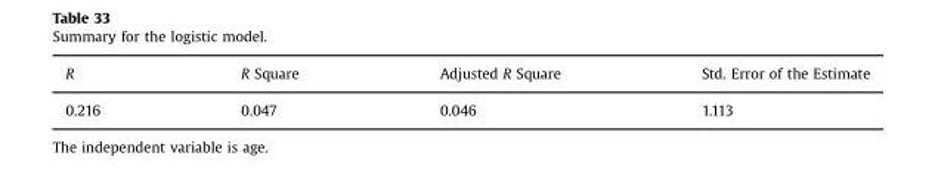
<table><thead><tr><td>R</td><td>R Square</td><td>Adjusted R Square</td><td>Std. Error of the Estimate</td></tr></thead><tbody><tr><td>0.216</td><td>0.047</td><td>0.046</td><td>1.113</td></tr></tbody></table>